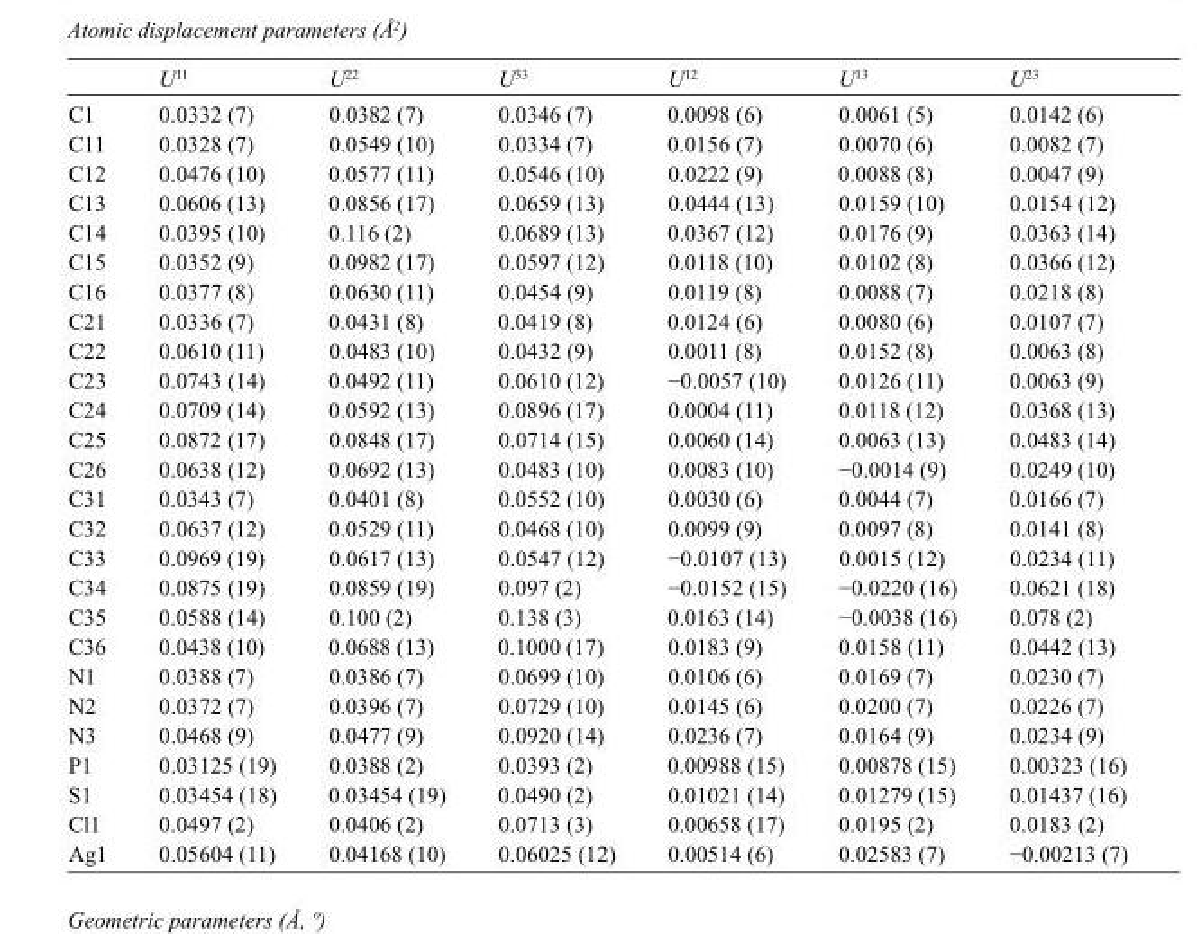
<table><thead><tr><td></td><td>U<sup>11</sup></td><td>U<sup>22</sup></td><td>U<sup>33</sup></td><td>U<sup>12</sup></td><td>U<sup>13</sup></td><td>U<sup>23</sup></td></tr></thead><tbody><tr><td>C1</td><td>0.0332 (7)</td><td>0.0382 (7)</td><td>0.0346 (7)</td><td>0.0098 (6)</td><td>0.0061 (5)</td><td>0.0142 (6)</td></tr><tr><td>C11</td><td>0.0328 (7)</td><td>0.0549 (10)</td><td>0.0334 (7)</td><td>0.0156 (7)</td><td>0.0070 (6)</td><td>0.0082 (7)</td></tr><tr><td>C12</td><td>0.0476 (10)</td><td>0.0577 (11)</td><td>0.0546 (10)</td><td>0.0222 (9)</td><td>0.0088 (8)</td><td>0.0047 (9)</td></tr><tr><td>C13</td><td>0.0606 (13)</td><td>0.0856 (17)</td><td>0.0659 (13)</td><td>0.0444 (13)</td><td>0.0159 (10)</td><td>0.0154 (12)</td></tr><tr><td>C14</td><td>0.0395 (10)</td><td>0.116 (2)</td><td>0.0689 (13)</td><td>0.0367 (12)</td><td>0.0176 (9)</td><td>0.0363 (14)</td></tr><tr><td>C15</td><td>0.0352 (9)</td><td>0.0982 (17)</td><td>0.0597 (12)</td><td>0.0118 (10)</td><td>0.0102 (8)</td><td>0.0366 (12)</td></tr><tr><td>C16</td><td>0.0377 (8)</td><td>0.0630 (11)</td><td>0.0454 (9)</td><td>0.0119 (8)</td><td>0.0088 (7)</td><td>0.0218 (8)</td></tr><tr><td>C21</td><td>0.0336 (7)</td><td>0.0431 (8)</td><td>0.0419 (8)</td><td>0.0124 (6)</td><td>0.0080 (6)</td><td>0.0107 (7)</td></tr><tr><td>C22</td><td>0.0610 (11)</td><td>0.0483 (10)</td><td>0.0432 (9)</td><td>0.0011 (8)</td><td>0.0152 (8)</td><td>0.0063 (8)</td></tr><tr><td>C23</td><td>0.0743 (14)</td><td>0.0492 (11)</td><td>0.0610 (12)</td><td>−0.0057 (10)</td><td>0.0126 (11)</td><td>0.0063 (9)</td></tr><tr><td>C24</td><td>0.0709 (14)</td><td>0.0592 (13)</td><td>0.0896 (17)</td><td>0.0004 (11)</td><td>0.0118 (12)</td><td>0.0368 (13)</td></tr><tr><td>C25</td><td>0.0872 (17)</td><td>0.0848 (17)</td><td>0.0714 (15)</td><td>0.0060 (14)</td><td>0.0063 (13)</td><td>0.0483 (14)</td></tr><tr><td>C26</td><td>0.0638 (12)</td><td>0.0692 (13)</td><td>0.0483 (10)</td><td>0.0083 (10)</td><td>−0.0014 (9)</td><td>0.0249 (10)</td></tr><tr><td>C31</td><td>0.0343 (7)</td><td>0.0401 (8)</td><td>0.0552 (10)</td><td>0.0030 (6)</td><td>0.0044 (7)</td><td>0.0166 (7)</td></tr><tr><td>C32</td><td>0.0637 (12)</td><td>0.0529 (11)</td><td>0.0468 (10)</td><td>0.0099 (9)</td><td>0.0097 (8)</td><td>0.0141 (8)</td></tr><tr><td>C33</td><td>0.0969 (19)</td><td>0.0617 (13)</td><td>0.0547 (12)</td><td>−0.0107 (13)</td><td>0.0015 (12)</td><td>0.0234 (11)</td></tr><tr><td>C34</td><td>0.0875 (19)</td><td>0.0859 (19)</td><td>0.097 (2)</td><td>−0.0152 (15)</td><td>−0.0220 (16)</td><td>0.0621 (18)</td></tr><tr><td>C35</td><td>0.0588 (14)</td><td>0.100 (2)</td><td>0.138 (3)</td><td>0.0163 (14)</td><td>−0.0038 (16)</td><td>0.078 (2)</td></tr><tr><td>C36</td><td>0.0438 (10)</td><td>0.0688 (13)</td><td>0.1000 (17)</td><td>0.0183 (9)</td><td>0.0158 (11)</td><td>0.0442 (13)</td></tr><tr><td>N1</td><td>0.0388 (7)</td><td>0.0386 (7)</td><td>0.0699 (10)</td><td>0.0106 (6)</td><td>0.0169 (7)</td><td>0.0230 (7)</td></tr><tr><td>N2</td><td>0.0372 (7)</td><td>0.0396 (7)</td><td>0.0729 (10)</td><td>0.0145 (6)</td><td>0.0200 (7)</td><td>0.0226 (7)</td></tr><tr><td>N3</td><td>0.0468 (9)</td><td>0.0477 (9)</td><td>0.0920 (14)</td><td>0.0236 (7)</td><td>0.0164 (9)</td><td>0.0234 (9)</td></tr><tr><td>P1</td><td>0.03125 (19)</td><td>0.0388 (2)</td><td>0.0393 (2)</td><td>0.00988 (15)</td><td>0.00878 (15)</td><td>0.00323 (16)</td></tr><tr><td>S1</td><td>0.03454 (18)</td><td>0.03454 (19)</td><td>0.0490 (2)</td><td>0.01021 (14)</td><td>0.01279 (15)</td><td>0.01437 (16)</td></tr><tr><td>Cl1</td><td>0.0497 (2)</td><td>0.0406 (2)</td><td>0.0713 (3)</td><td>0.00658 (17)</td><td>0.0195 (2)</td><td>0.0183 (2)</td></tr><tr><td>Ag1</td><td>0.05604 (11)</td><td>0.04168 (10)</td><td>0.06025 (12)</td><td>0.00514 (6)</td><td>0.02583 (7)</td><td>−0.00213 (7)</td></tr></tbody></table>